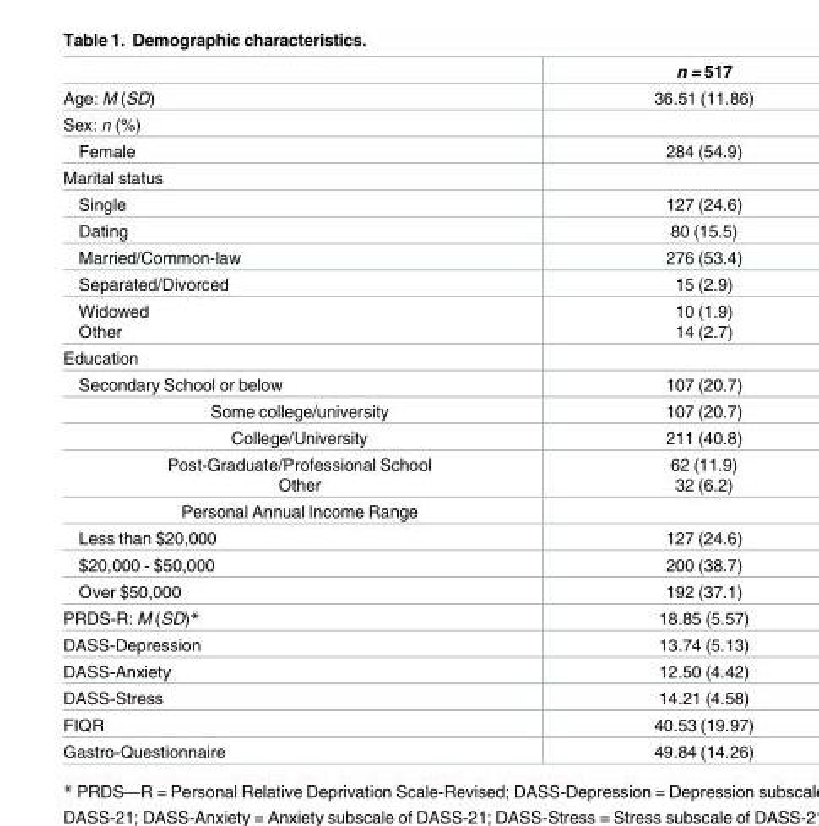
<table><thead><tr><td></td><td>n = 517</td></tr></thead><tbody><tr><td>Age: M (SD)</td><td>36.51 (11.86)</td></tr><tr><td colspan="2">Sex: n (%)</td></tr><tr><td>Female</td><td>284 (54.9)</td></tr><tr><td colspan="2">Marital status</td></tr><tr><td>Single</td><td>127 (24.6)</td></tr><tr><td>Dating</td><td>80 (15.5)</td></tr><tr><td>Married/Common-law</td><td>276 (53.4)</td></tr><tr><td>Separated/Divorced</td><td>15 (2.9)</td></tr><tr><td>Widowed Other</td><td>10 (1.9) 14 (2.7)</td></tr><tr><td colspan="2">Education</td></tr><tr><td>Secondary School or below</td><td>107 (20.7)</td></tr><tr><td>Some college/university</td><td>107 (20.7)</td></tr><tr><td>College/University</td><td>211 (40.8)</td></tr><tr><td>Post-Graduate/Professional School Other</td><td>62 (11.9) 32 (6.2)</td></tr><tr><td colspan="2">Personal Annual Income Range</td></tr><tr><td>Less than $20,000</td><td>127 (24.6)</td></tr><tr><td>$20,000 - $50,000</td><td>200 (38.7)</td></tr><tr><td>Over $50,000</td><td>192 (37.1)</td></tr><tr><td>PRDS-R: M (SD)*</td><td>18.85 (5.57)</td></tr><tr><td>DASS-Depression</td><td>13.74 (5.13)</td></tr><tr><td>DASS-Anxiety</td><td>12.50 (4.42)</td></tr><tr><td>DASS-Stress</td><td>14.21 (4.58)</td></tr><tr><td>FIQR</td><td>40.53 (19.97)</td></tr><tr><td>Gastro-Questionnaire</td><td>49.84 (14.26)</td></tr></tbody></table>